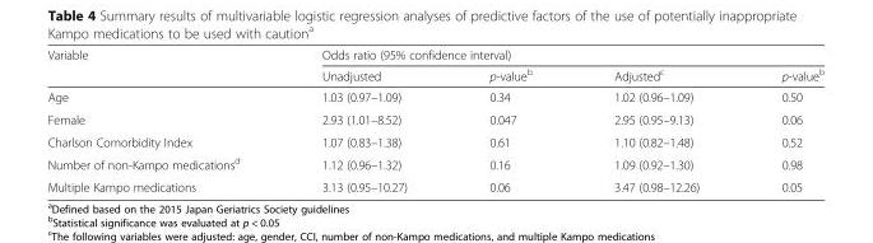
<table><thead><tr><td rowspan="2">Variable</td><td colspan="4">Odds ratio (95% confidence interval)</td></tr><tr><td>Unadjusted</td><td>p-value<sup>b</sup></td><td>Adjusted<sup>c</sup></td><td>p-value<sup>b</sup></td></tr></thead><tbody><tr><td>Age</td><td>1.03 (0.97–1.09)</td><td>0.34</td><td>1.02 (0.96–1.09)</td><td>0.50</td></tr><tr><td>Female</td><td>2.93 (1.01–8.52)</td><td>0.047</td><td>2.95 (0.95–9.13)</td><td>0.06</td></tr><tr><td>Charlson Comorbidity Index</td><td>1.07 (0.83–1.38)</td><td>0.61</td><td>1.10 (0.82–1.48)</td><td>0.52</td></tr><tr><td>Number of non-Kampo medications<sup>d</sup></td><td>1.12 (0.96–1.32)</td><td>0.16</td><td>1.09 (0.92–1.30)</td><td>0.98</td></tr><tr><td>Multiple Kampo medications</td><td>3.13 (0.95–10.27)</td><td>0.06</td><td>3.47 (0.98–12.26)</td><td>0.05</td></tr></tbody></table>